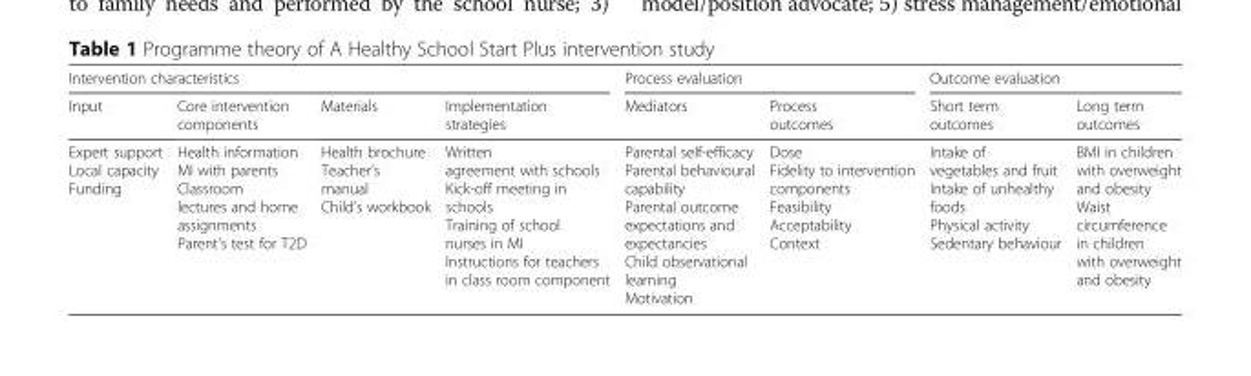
<table><thead><tr><td colspan="4">Intervention characteristics</td><td colspan="2">Process evaluation</td><td colspan="2">Outcome evaluation</td></tr><tr><td>Input</td><td>Core intervention components</td><td>Materials</td><td>Implementation strategies</td><td>Mediators</td><td>Process outcomes</td><td>Short term outcomes</td><td>Long term outcomes</td></tr></thead><tbody><tr><td>Expert support Local capacity Funding</td><td>Health information MI with parents Classroom lectures and home assignments Parent’s test for T2D</td><td>Health brochure Teacher’s manual Child’s workbook</td><td>Written agreement with schools Kick-off meeting in schools Training of school nurses in MI Instructions for teachers in class room component</td><td>Parental self-efficacy Parental behavioural capability Parental outcome expectations and expectancies Child observational learning Motivation</td><td>Dose Fidelity to intervention components Feasibility Acceptability Context</td><td>Intake of vegetables and fruit Intake of unhealthy foods Physical activity Sedentary behaviour</td><td>BMI in children with overweight and obesity Waist circumference in children with overweight and obesity</td></tr></tbody></table>